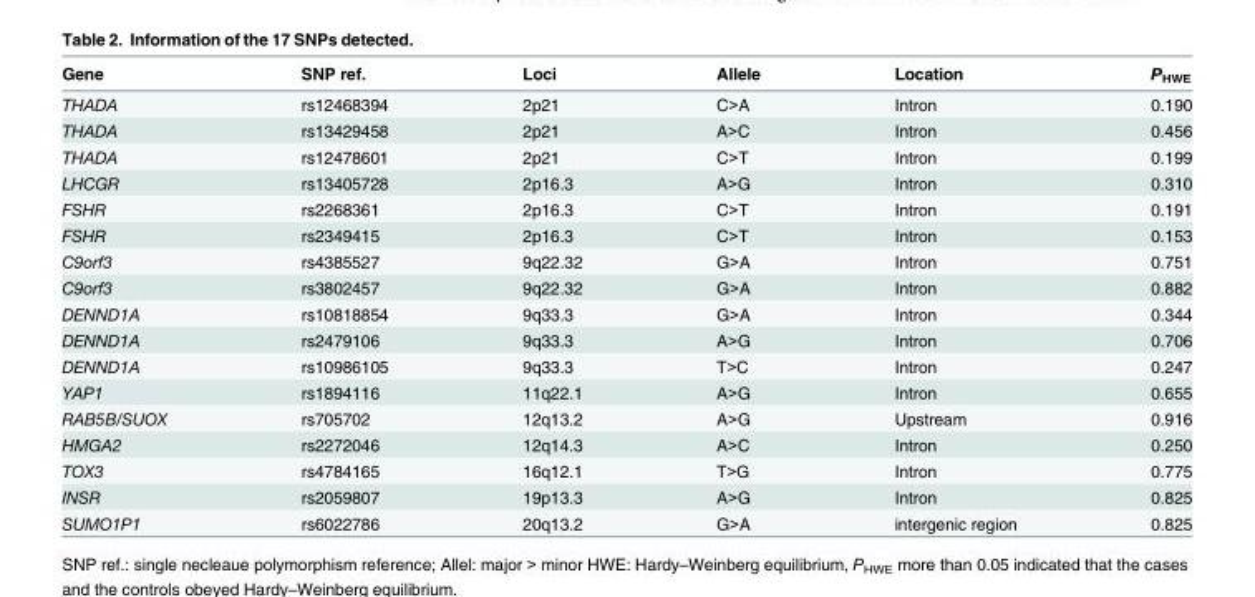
<table><thead><tr><td>Gene</td><td>SNP ref.</td><td>Loci</td><td>Allele</td><td>Location</td><td>P<sub>HWE</sub></td></tr></thead><tbody><tr><td>THADA</td><td>rs12468394</td><td>2p21</td><td>C&gt;A</td><td>Intron</td><td>0.190</td></tr><tr><td>THADA</td><td>rs13429458</td><td>2p21</td><td>A&gt;C</td><td>Intron</td><td>0.456</td></tr><tr><td>THADA</td><td>rs12478601</td><td>2p21</td><td>C&gt;T</td><td>Intron</td><td>0.199</td></tr><tr><td>LHCGR</td><td>rs13405728</td><td>2p16.3</td><td>A&gt;G</td><td>Intron</td><td>0.310</td></tr><tr><td>FSHR</td><td>rs2268361</td><td>2p16.3</td><td>C&gt;T</td><td>Intron</td><td>0.191</td></tr><tr><td>FSHR</td><td>rs2349415</td><td>2p16.3</td><td>C&gt;T</td><td>Intron</td><td>0.153</td></tr><tr><td>C9orf3</td><td>rs4385527</td><td>9q22.32</td><td>G&gt;A</td><td>Intron</td><td>0.751</td></tr><tr><td>C9orf3</td><td>rs3802457</td><td>9q22.32</td><td>G&gt;A</td><td>Intron</td><td>0.882</td></tr><tr><td>DENND1A</td><td>rs10818854</td><td>9q33.3</td><td>G&gt;A</td><td>Intron</td><td>0.344</td></tr><tr><td>DENND1A</td><td>rs2479106</td><td>9q33.3</td><td>A&gt;G</td><td>Intron</td><td>0.706</td></tr><tr><td>DENND1A</td><td>rs10986105</td><td>9q33.3</td><td>T&gt;C</td><td>Intron</td><td>0.247</td></tr><tr><td>YAP1</td><td>rs1894116</td><td>11q22.1</td><td>A&gt;G</td><td>Intron</td><td>0.655</td></tr><tr><td>RAB5B/SUOX</td><td>rs705702</td><td>12q13.2</td><td>A&gt;G</td><td>Upstream</td><td>0.916</td></tr><tr><td>HMGA2</td><td>rs2272046</td><td>12q14.3</td><td>A&gt;C</td><td>Intron</td><td>0.250</td></tr><tr><td>TOX3</td><td>rs4784165</td><td>16q12.1</td><td>T&gt;G</td><td>Intron</td><td>0.775</td></tr><tr><td>INSR</td><td>rs2059807</td><td>19p13.3</td><td>A&gt;G</td><td>Intron</td><td>0.825</td></tr><tr><td>SUMO1P1</td><td>rs6022786</td><td>20q13.2</td><td>G&gt;A</td><td>intergenic region</td><td>0.825</td></tr></tbody></table>